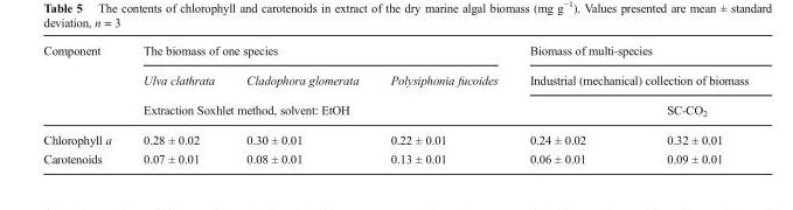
<table><thead><tr><td rowspan="4">Component Chlorophyll a</td><td colspan="3">The biomass of one species</td><td rowspan="2" colspan="2">Biomass of multi-species Industrial (mechanical) collection of biomass</td></tr><tr><td>Ulva clathrata</td><td>Cladophora glomerata</td><td>Polysiphonia fucoides</td></tr><tr><td colspan="4">Extraction Soxhlet method, solvent: EtOH</td><td rowspan="2">SC-CO<sub>2</sub> 0.32 ± 0.01</td></tr><tr><td>0.28 ± 0.02</td><td>0.30 ± 0.01</td><td>0.22 ± 0.01</td><td>0.24 ± 0.02</td></tr></thead><tbody><tr><td>Carotenoids</td><td>0.07 ± 0.01</td><td>0.08 ± 0.01</td><td>0.13 ± 0.01</td><td>0.06 ± 0.01</td><td>0.09 ± 0.01</td></tr></tbody></table>